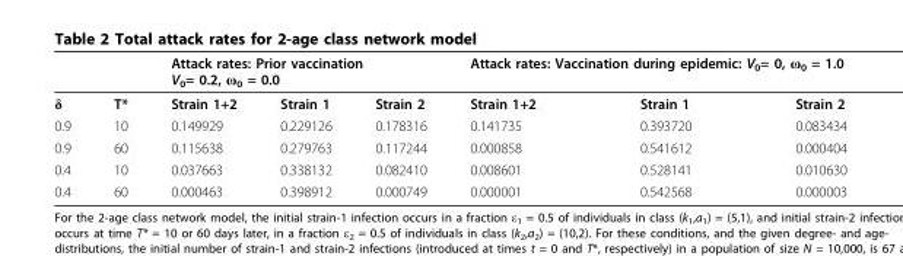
<table><thead><tr><td rowspan="2">δ</td><td rowspan="2">T*</td><td colspan="3">Attack rates: Prior vaccination V<sub>0</sub>= 0.2, ω<sub>0</sub> = 0.0</td><td colspan="3">Attack rates: Vaccination during epidemic: V<sub>0</sub>= 0, ω<sub>0</sub> = 1.0</td></tr><tr><td>Strain 1+2</td><td>Strain 1</td><td>Strain 2</td><td>Strain 1+2</td><td>Strain 1</td><td>Strain 2</td></tr></thead><tbody><tr><td>0.9</td><td>10</td><td>0.149929</td><td>0.229126</td><td>0.178316</td><td>0.141735</td><td>0.393720</td><td>0.083434</td></tr><tr><td>0.9</td><td>60</td><td>0.115638</td><td>0.279763</td><td>0.117244</td><td>0.000858</td><td>0.541612</td><td>0.000404</td></tr><tr><td>0.4</td><td>10</td><td>0.037663</td><td>0.338132</td><td>0.082410</td><td>0.008601</td><td>0.528141</td><td>0.010630</td></tr><tr><td>0.4</td><td>60</td><td>0.000463</td><td>0.398912</td><td>0.000749</td><td>0.000001</td><td>0.542568</td><td>0.000003</td></tr></tbody></table>